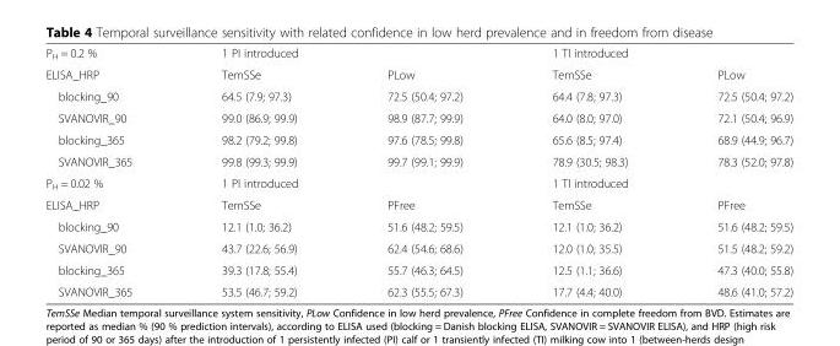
<table><tbody><tr><td>P<sub>H</sub> = 0.2 %</td><td>1 PI introduced</td><td></td><td>1 TI introduced</td><td></td></tr><tr><td>ELISA_HRP</td><td>TemSSe</td><td>PLow</td><td>TemSSe</td><td>PLow</td></tr><tr><td>blocking_90</td><td>64.5 (7.9; 97.3)</td><td>72.5 (50.4; 97.2)</td><td>64.4 (7.8; 97.3)</td><td>72.5 (50.4; 97.2)</td></tr><tr><td>SVANOVIR_90</td><td>99.0 (86.9; 99.9)</td><td>98.9 (87.7; 99.9)</td><td>64.0 (8.0; 97.0)</td><td>72.1 (50.4; 96.9)</td></tr><tr><td>blocking_365</td><td>98.2 (79.2; 99.8)</td><td>97.6 (78.5; 99.8)</td><td>65.6 (8.5; 97.4)</td><td>68.9 (44.9; 96.7)</td></tr><tr><td>SVANOVIR_365</td><td>99.8 (99.3; 99.9)</td><td>99.7 (99.1; 99.9)</td><td>78.9 (30.5; 98.3)</td><td>78.3 (52.0; 97.8)</td></tr><tr><td>P<sub>H</sub> = 0.02 %</td><td>1 PI introduced</td><td></td><td>1 TI introduced</td><td></td></tr><tr><td>ELISA_HRP</td><td>TemSSe</td><td>PFree</td><td>TemSSe</td><td>PFree</td></tr><tr><td>blocking_90</td><td>12.1 (1.0; 36.2)</td><td>51.6 (48.2; 59.5)</td><td>12.1 (1.0; 36.2)</td><td>51.6 (48.2; 59.5)</td></tr><tr><td>SVANOVIR_90</td><td>43.7 (22.6; 56.9)</td><td>62.4 (54.6; 68.6)</td><td>12.0 (1.0; 35.5)</td><td>51.5 (48.2; 59.2)</td></tr><tr><td>blocking_365</td><td>39.3 (17.8; 55.4)</td><td>55.7 (46.3; 64.5)</td><td>12.5 (1.1; 36.6)</td><td>47.3 (40.0; 55.8)</td></tr><tr><td>SVANOVIR_365</td><td>53.5 (46.7; 59.2)</td><td>62.3 (55.5; 67.3)</td><td>17.7 (4.4; 40.0)</td><td>48.6 (41.0; 57.2)</td></tr></tbody></table>